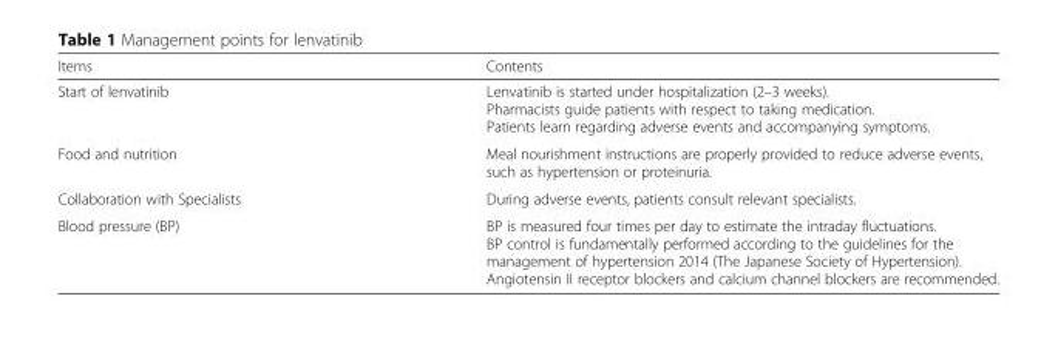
<table><thead><tr><td>Items</td><td>Contents</td></tr></thead><tbody><tr><td>Start of lenvatinib</td><td>Lenvatinib is started under hospitalization (2–3 weeks). Pharmacists guide patients with respect to taking medication. Patients learn regarding adverse events and accompanying symptoms.</td></tr><tr><td>Food and nutrition</td><td>Meal nourishment instructions are properly provided to reduce adverse events, such as hypertension or proteinuria.</td></tr><tr><td>Collaboration with Specialists</td><td>During adverse events, patients consult relevant specialists.</td></tr><tr><td>Blood pressure (BP)</td><td>BP is measured four times per day to estimate the intraday fluctuations. BP control is fundamentally performed according to the guidelines for the management of hypertension 2014 (The Japanese Society of Hypertension). Angiotensin II receptor blockers and calcium channel blockers are recommended.</td></tr></tbody></table>